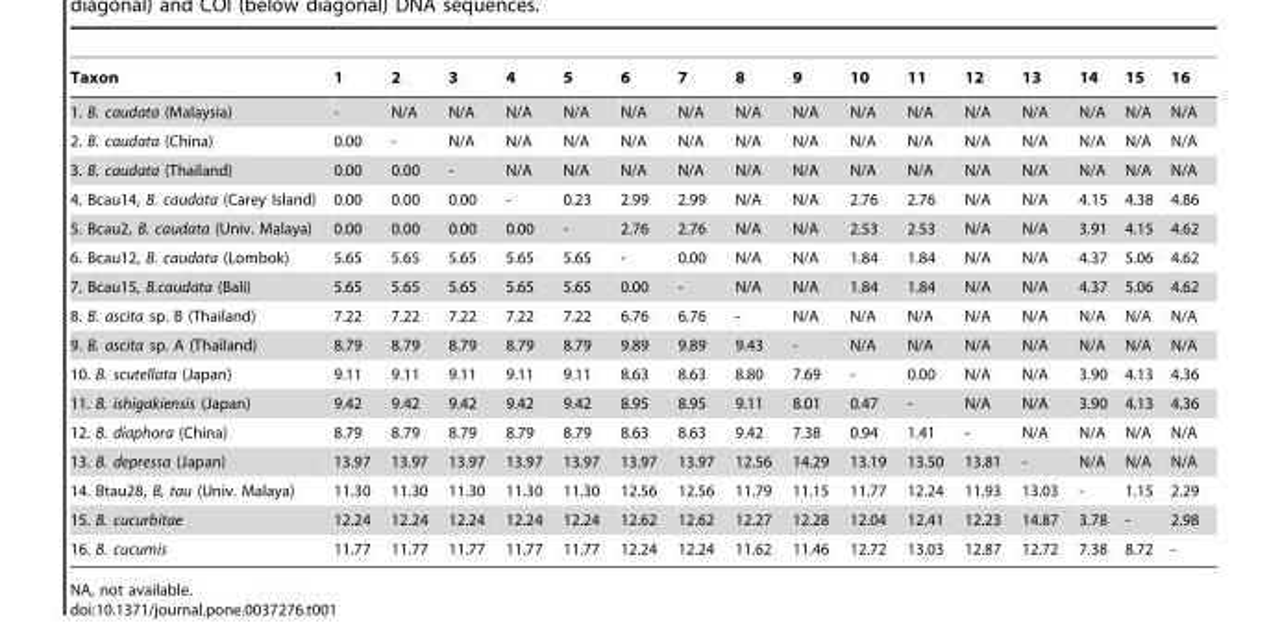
<table><thead><tr><td>Taxon</td><td>1</td><td>2</td><td>3</td><td>4</td><td>5</td><td>6</td><td>7</td><td>8</td><td>9</td><td>10</td><td>11</td><td>12</td><td>13</td><td>14</td><td>15</td><td>16</td></tr></thead><tbody><tr><td>1. B. caudata (Malaysia)</td><td>-</td><td>N/A</td><td>N/A</td><td>N/A</td><td>N/A</td><td>N/A</td><td>N/A</td><td>N/A</td><td>N/A</td><td>N/A</td><td>N/A</td><td>N/A</td><td>N/A</td><td>N/A</td><td>N/A</td><td>N/A</td></tr><tr><td>2. B. caudata (China)</td><td>0.00</td><td>-</td><td>N/A</td><td>N/A</td><td>N/A</td><td>N/A</td><td>N/A</td><td>N/A</td><td>N/A</td><td>N/A</td><td>N/A</td><td>N/A</td><td>N/A</td><td>N/A</td><td>N/A</td><td>N/A</td></tr><tr><td>3. B. caudata (Thailand)</td><td>0.00</td><td>0.00</td><td>-</td><td>N/A</td><td>N/A</td><td>N/A</td><td>N/A</td><td>N/A</td><td>N/A</td><td>N/A</td><td>N/A</td><td>N/A</td><td>N/A</td><td>N/A</td><td>N/A</td><td>N/A</td></tr><tr><td>4. Bcau14, B. caudata (Carey Island)</td><td>0.00</td><td>0.00</td><td>0.00</td><td>-</td><td>0.23</td><td>2.99</td><td>2.99</td><td>N/A</td><td>N/A</td><td>2.76</td><td>2.76</td><td>N/A</td><td>N/A</td><td>4.15</td><td>4.38</td><td>4.86</td></tr><tr><td>5. Bcau2, B. caudata (Univ. Malaya)</td><td>0.00</td><td>0.00</td><td>0.00</td><td>0.00</td><td>-</td><td>2.76</td><td>2.76</td><td>N/A</td><td>N/A</td><td>2.53</td><td>2.53</td><td>N/A</td><td>N/A</td><td>3.91</td><td>4.15</td><td>4.62</td></tr><tr><td>6. Bcau12, B. caudata (Lombok)</td><td>5.65</td><td>5.65</td><td>5.65</td><td>5.65</td><td>5.65</td><td>-</td><td>0.00</td><td>N/A</td><td>N/A</td><td>1.84</td><td>1.84</td><td>N/A</td><td>N/A</td><td>4.37</td><td>5.06</td><td>4.62</td></tr><tr><td>7. Bcau15, B.caudata (Bali)</td><td>5.65</td><td>5.65</td><td>5.65</td><td>5.65</td><td>5.65</td><td>0.00</td><td>-</td><td>N/A</td><td>N/A</td><td>1.84</td><td>1.84</td><td>N/A</td><td>N/A</td><td>4.37</td><td>5.06</td><td>4.62</td></tr><tr><td>8. B. ascita sp. B (Thailand)</td><td>7.22</td><td>7.22</td><td>7.22</td><td>7.22</td><td>7.22</td><td>6.76</td><td>6.76</td><td>-</td><td>N/A</td><td>N/A</td><td>N/A</td><td>N/A</td><td>N/A</td><td>N/A</td><td>N/A</td><td>N/A</td></tr><tr><td>9. B. ascita sp. A (Thailand)</td><td>8.79</td><td>8.79</td><td>8.79</td><td>8.79</td><td>8.79</td><td>9.89</td><td>9.89</td><td>9.43</td><td>-</td><td>N/A</td><td>N/A</td><td>N/A</td><td>N/A</td><td>N/A</td><td>N/A</td><td>N/A</td></tr><tr><td>10. B. scutellata (Japan)</td><td>9.11</td><td>9.11</td><td>9.11</td><td>9.11</td><td>9.11</td><td>8.63</td><td>8.63</td><td>8.80</td><td>7.69</td><td>-</td><td>0.00</td><td>N/A</td><td>N/A</td><td>3.90</td><td>4.13</td><td>4.36</td></tr><tr><td>11. B. ishigakiensis (Japan)</td><td>9.42</td><td>9.42</td><td>9.42</td><td>9.42</td><td>9.42</td><td>8.95</td><td>8.95</td><td>9.11</td><td>8.01</td><td>0.47</td><td>-</td><td>N/A</td><td>N/A</td><td>3.90</td><td>4.13</td><td>4.36</td></tr><tr><td>12. B. diaphora (China)</td><td>8.79</td><td>8.79</td><td>8.79</td><td>8.79</td><td>8.79</td><td>8.63</td><td>8.63</td><td>9.42</td><td>7.38</td><td>0.94</td><td>1.41</td><td>-</td><td>N/A</td><td>N/A</td><td>N/A</td><td>N/A</td></tr><tr><td>13. B. depressa (Japan)</td><td>13.97</td><td>13.97</td><td>13.97</td><td>13.97</td><td>13.97</td><td>13.97</td><td>13.97</td><td>12.56</td><td>14.29</td><td>13.19</td><td>13.50</td><td>13.81</td><td>-</td><td>N/A</td><td>N/A</td><td>N/A</td></tr><tr><td>14. Btau28, B, tau (Univ. Malaya)</td><td>11.30</td><td>11.30</td><td>11.30</td><td>11.30</td><td>11.30</td><td>12.56</td><td>12.56</td><td>11.79</td><td>11.15</td><td>11.77</td><td>12.24</td><td>11.93</td><td>13.03</td><td>-</td><td>1.15</td><td>2.29</td></tr><tr><td>15. B. cucurbitae</td><td>12.24</td><td>12.24</td><td>12.24</td><td>12.24</td><td>12.24</td><td>12.62</td><td>12.62</td><td>12.27</td><td>12.28</td><td>12.04</td><td>12.41</td><td>12.23</td><td>14.87</td><td>3.78</td><td>-</td><td>2.98</td></tr><tr><td>16. B. cucumis</td><td>11.77</td><td>11.77</td><td>11.77</td><td>11.77</td><td>11.77</td><td>12.24</td><td>12.24</td><td>11.62</td><td>11.46</td><td>12.72</td><td>13.03</td><td>12.87</td><td>12.72</td><td>7.38</td><td>8.72</td><td>-</td></tr></tbody></table>